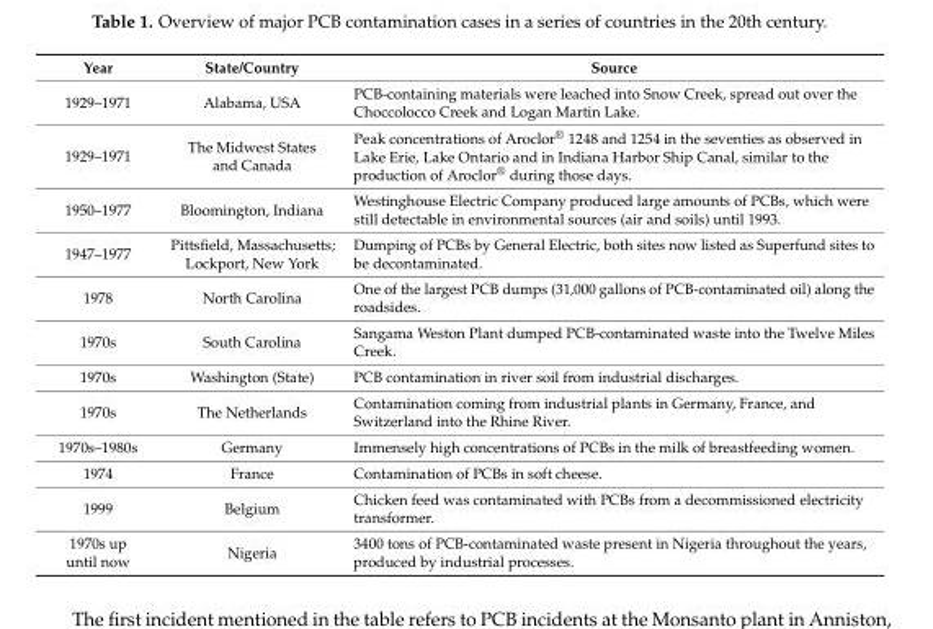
<table><thead><tr><td>Year</td><td>State/Country</td><td>Source</td></tr></thead><tbody><tr><td>1929–1971</td><td>Alabama, USA</td><td>PCB-containing materials were leached into Snow Creek, spread out over the Choccolocco Creek and Logan Martin Lake.</td></tr><tr><td>1929–1971</td><td>The Midwest States and Canada</td><td>Peak concentrations of Aroclor<sup>®</sup> 1248 and 1254 in the seventies as observed in Lake Erie, Lake Ontario and in Indiana Harbor Ship Canal, similar to the production of Aroclor<sup>®</sup> during those days.</td></tr><tr><td>1950–1977</td><td>Bloomington, Indiana</td><td>Westinghouse Electric Company produced large amounts of PCBs, which were still detectable in environmental sources (air and soils) until 1993.</td></tr><tr><td>1947–1977</td><td>Pittsfield, Massachusetts; Lockport, New York</td><td>Dumping of PCBs by General Electric, both sites now listed as Superfund sites to be decontaminated.</td></tr><tr><td>1978</td><td>North Carolina</td><td>One of the largest PCB dumps (31,000 gallons of PCB-contaminated oil) along the roadsides.</td></tr><tr><td>1970s</td><td>South Carolina</td><td>Sangama Weston Plant dumped PCB-contaminated waste into the Twelve Miles Creek.</td></tr><tr><td>1970s</td><td>Washington (State)</td><td>PCB contamination in river soil from industrial discharges.</td></tr><tr><td>1970s</td><td>The Netherlands</td><td>Contamination coming from industrial plants in Germany, France, and Switzerland into the Rhine River.</td></tr><tr><td>1970s–1980s</td><td>Germany</td><td>Immensely high concentrations of PCBs in the milk of breastfeeding women.</td></tr><tr><td>1974</td><td>France</td><td>Contamination of PCBs in soft cheese.</td></tr><tr><td>1999</td><td>Belgium</td><td>Chicken feed was contaminated with PCBs from a decommissioned electricity transformer.</td></tr><tr><td>1970s up until now</td><td>Nigeria</td><td>3400 tons of PCB-contaminated waste present in Nigeria throughout the years, produced by industrial processes.</td></tr></tbody></table>